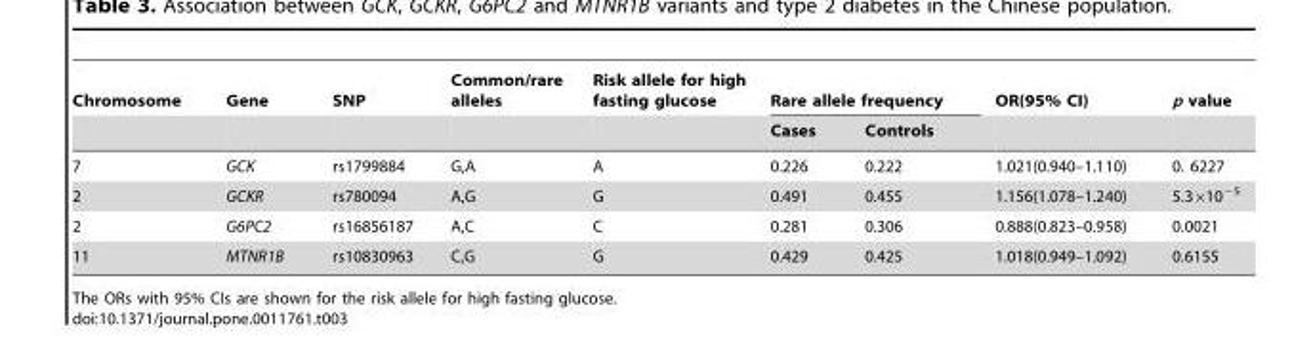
<table><thead><tr><td rowspan="2">Chromosome</td><td rowspan="2">Gene</td><td rowspan="2">SNP</td><td rowspan="2">Common/rare alleles</td><td rowspan="2">Risk allele for high fasting glucose</td><td colspan="2">Rare allele frequency</td><td rowspan="2">OR(95% CI)</td><td rowspan="2">p value</td></tr><tr><td>Cases</td><td>Controls</td></tr></thead><tbody><tr><td>7</td><td>GCK</td><td>rs1799884</td><td>G,A</td><td>A</td><td>0.226</td><td>0.222</td><td>1.021(0.940–1.110)</td><td>0. 6227</td></tr><tr><td>2</td><td>GCKR</td><td>rs780094</td><td>A,G</td><td>G</td><td>0.491</td><td>0.455</td><td>1.156(1.078–1.240)</td><td>5.3×10<sup>−5</sup></td></tr><tr><td>2</td><td>G6PC2</td><td>rs16856187</td><td>A,C</td><td>C</td><td>0.281</td><td>0.306</td><td>0.888(0.823–0.958)</td><td>0.0021</td></tr><tr><td>11</td><td>MTNR1B</td><td>rs10830963</td><td>C,G</td><td>G</td><td>0.429</td><td>0.425</td><td>1.018(0.949–1.092)</td><td>0.6155</td></tr></tbody></table>